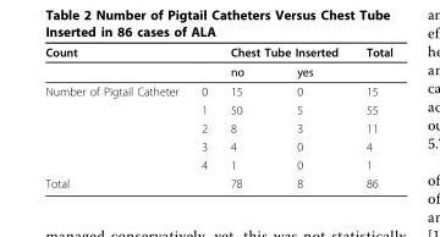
<table><thead><tr><td rowspan="2">Count</td><td rowspan="2"></td><td colspan="2">Chest Tube Inserted</td><td rowspan="2">Total</td></tr><tr><td>no</td><td>yes</td></tr></thead><tbody><tr><td rowspan="5">Number of Pigtail Catheter</td><td>0</td><td>15</td><td>0</td><td>15</td></tr><tr><td>1</td><td>50</td><td>5</td><td>55</td></tr><tr><td>2</td><td>8</td><td>3</td><td>11</td></tr><tr><td>3</td><td>4</td><td>0</td><td>4</td></tr><tr><td>4</td><td>1</td><td>0</td><td>1</td></tr><tr><td>Total</td><td></td><td>78</td><td>8</td><td>86</td></tr></tbody></table>